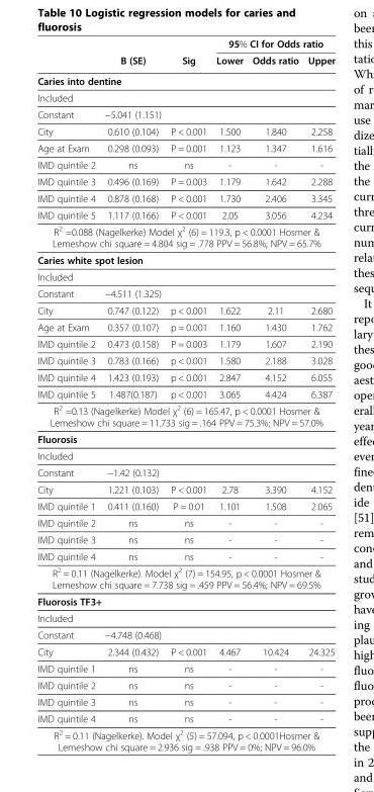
<table><thead><tr><td rowspan="2"></td><td rowspan="2">B (SE)</td><td rowspan="2">Sig</td><td colspan="3">95% CI for Odds ratio</td></tr><tr><td>Lower</td><td>Odds ratio</td><td>Upper</td></tr></thead><tbody><tr><td colspan="6">Caries into dentine</td></tr><tr><td colspan="6">Included</td></tr><tr><td>Constant</td><td>−5.041 (1.151)</td><td></td><td></td><td></td><td></td></tr><tr><td>City</td><td>0.610 (0.104)</td><td>P &lt; 0.001</td><td>1.500</td><td>1.840</td><td>2.258</td></tr><tr><td>Age at Exam</td><td>0.298 (0.093)</td><td>P = 0.001</td><td>1.123</td><td>1.347</td><td>1.616</td></tr><tr><td>IMD quintile 2</td><td>ns</td><td>ns</td><td>-</td><td>-</td><td>-</td></tr><tr><td>IMD quintile 3</td><td>0.496 (0.169)</td><td>P = 0.003</td><td>1.179</td><td>1.642</td><td>2.288</td></tr><tr><td>IMD quintile 4</td><td>0.878 (0.168)</td><td>P &lt; 0.001</td><td>1.730</td><td>2.406</td><td>3.345</td></tr><tr><td>IMD quintile 5</td><td>1.117 (0.166)</td><td>P &lt; 0.001</td><td>2.05</td><td>3.056</td><td>4.234</td></tr><tr><td colspan="6">R<sup>2</sup> =0.088 (Nagelkerke) Model χ<sup>2</sup> (6) = 119.3, p &lt; 0.0001 Hosmer &amp; Lemeshow chi square = 4.804 sig = .778 PPV = 56.8%; NPV = 65.7%</td></tr><tr><td colspan="6">Caries white spot lesion</td></tr><tr><td colspan="6">Included</td></tr><tr><td>Constant</td><td>−4.511 (1.325)</td><td></td><td></td><td></td><td></td></tr><tr><td>City</td><td>0.747 (0.122)</td><td>p &lt; 0.001</td><td>1.622</td><td>2.11</td><td>2.680</td></tr><tr><td>Age at Exam</td><td>0.357 (0.107)</td><td>p = 0.001</td><td>1.160</td><td>1.430</td><td>1.762</td></tr><tr><td>IMD quintile 2</td><td>0.473 (0.158)</td><td>P = 0.003</td><td>1.179</td><td>1.607</td><td>2.190</td></tr><tr><td>IMD quintile 3</td><td>0.783 (0.166)</td><td>p &lt; 0.001</td><td>1.580</td><td>2.188</td><td>3.028</td></tr><tr><td>IMD quintile 4</td><td>1.423 (0.193)</td><td>p &lt; 0.001</td><td>2.847</td><td>4.152</td><td>6.055</td></tr><tr><td>IMD quintile 5</td><td>1.487(0.187)</td><td>p &lt; 0.001</td><td>3.065</td><td>4.424</td><td>6.387</td></tr><tr><td colspan="6">R<sup>2</sup> =0.13 (Nagelkerke) Model χ<sup>2</sup> (6) = 165.47, p &lt; 0.0001 Hosmer &amp; Lemeshow chi square = 11.733 sig = .164 PPV = 75.3%; NPV = 57.0%</td></tr><tr><td colspan="6">Fluorosis</td></tr><tr><td colspan="6">Included</td></tr><tr><td>Constant</td><td>−1.42 (0.132)</td><td></td><td></td><td></td><td></td></tr><tr><td>City</td><td>1.221 (0.103)</td><td>P &lt; 0.001</td><td>2.78</td><td>3.390</td><td>4.152</td></tr><tr><td>IMD quintile 1</td><td>0.411 (0.160)</td><td>P = 0.01</td><td>1.101</td><td>1.508</td><td>2.065</td></tr><tr><td>IMD quintile 2</td><td>ns</td><td>ns</td><td>-</td><td>-</td><td>-</td></tr><tr><td>IMD quintile 3</td><td>ns</td><td>ns</td><td>-</td><td>-</td><td>-</td></tr><tr><td>IMD quintile 4</td><td>ns</td><td>ns</td><td>-</td><td>-</td><td>-</td></tr><tr><td colspan="6">R<sup>2</sup> = 0.11 (Nagelkerke). Model χ<sup>2</sup> (7) = 154.95, p &lt; 0.0001 Hosmer &amp; Lemeshow chi square = 7.738 sig = .459 PPV = 56.4%; NPV = 69.5%</td></tr><tr><td colspan="6">Fluorosis TF3+</td></tr><tr><td colspan="6">Included</td></tr><tr><td>Constant</td><td>−4.748 (0.468)</td><td></td><td></td><td></td><td></td></tr><tr><td>City</td><td>2.344 (0.432)</td><td>P &lt; 0.001</td><td>4.467</td><td>10.424</td><td>24.325</td></tr><tr><td>IMD quintile 1</td><td>ns</td><td>ns</td><td>-</td><td>-</td><td>-</td></tr><tr><td>IMD quintile 2</td><td>ns</td><td>ns</td><td>-</td><td>-</td><td>-</td></tr><tr><td>IMD quintile 3</td><td>ns</td><td>ns</td><td>-</td><td>-</td><td>-</td></tr><tr><td>IMD quintile 4</td><td>ns</td><td>ns</td><td>-</td><td>-</td><td>-</td></tr><tr><td colspan="6">R<sup>2</sup> = 0.11 (Nagelkerke). Model χ<sup>2</sup> (5) = 57.094, p &lt; 0.0001Hosmer &amp; Lemeshow chi square = 2.936 sig = .938 PPV = 0%; NPV = 96.0%</td></tr></tbody></table>